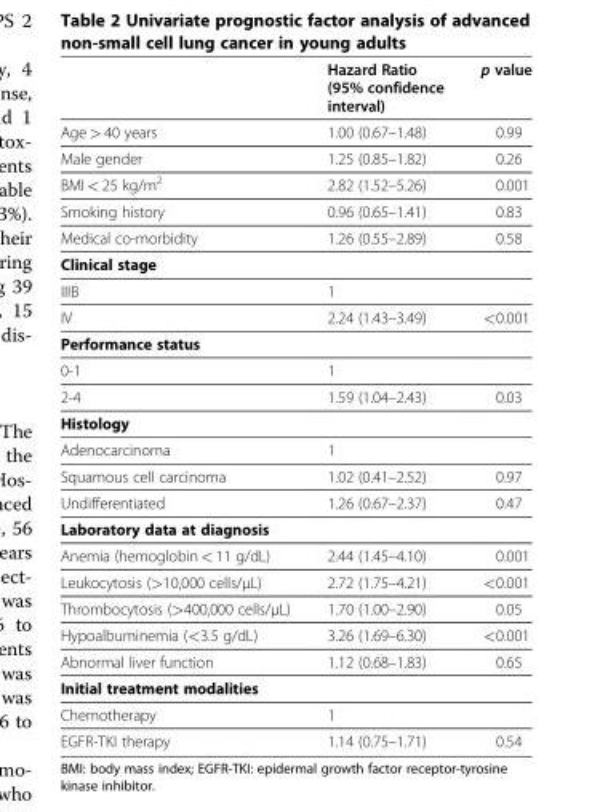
<table><thead><tr><td></td><td>Hazard Ratio (95% confidence interval)</td><td>p value</td></tr></thead><tbody><tr><td>Age &gt; 40 years</td><td>1.00 (0.67–1.48)</td><td>0.99</td></tr><tr><td>Male gender</td><td>1.25 (0.85–1.82)</td><td>0.26</td></tr><tr><td>BMI &lt; 25 kg/m<sup>2</sup></td><td>2.82 (1.52–5.26)</td><td>0.001</td></tr><tr><td>Smoking history</td><td>0.96 (0.65–1.41)</td><td>0.83</td></tr><tr><td>Medical co-morbidity</td><td>1.26 (0.55–2.89)</td><td>0.58</td></tr><tr><td colspan="3">Clinical stage</td></tr><tr><td>IIIB</td><td>1</td><td></td></tr><tr><td>IV</td><td>2.24 (1.43–3.49)</td><td>&lt;0.001</td></tr><tr><td colspan="3">Performance status</td></tr><tr><td>0-1</td><td>1</td><td></td></tr><tr><td>2-4</td><td>1.59 (1.04–2.43)</td><td>0.03</td></tr><tr><td colspan="3">Histology</td></tr><tr><td>Adenocarcinoma</td><td>1</td><td></td></tr><tr><td>Squamous cell carcinoma</td><td>1.02 (0.41–2.52)</td><td>0.97</td></tr><tr><td>Undifferentiated</td><td>1.26 (0.67–2.37)</td><td>0.47</td></tr><tr><td colspan="3">Laboratory data at diagnosis</td></tr><tr><td>Anemia (hemoglobin &lt; 11 g/dL)</td><td>2.44 (1.45–4.10)</td><td>0.001</td></tr><tr><td>Leukocytosis (&gt;10,000 cells/μL)</td><td>2.72 (1.75–4.21)</td><td>&lt;0.001</td></tr><tr><td>Thrombocytosis (&gt;400,000 cells/μL)</td><td>1.70 (1.00–2.90)</td><td>0.05</td></tr><tr><td>Hypoalbuminemia (&lt;3.5 g/dL)</td><td>3.26 (1.69–6.30)</td><td>&lt;0.001</td></tr><tr><td>Abnormal liver function</td><td>1.12 (0.68–1.83)</td><td>0.65</td></tr><tr><td colspan="3">Initial treatment modalities</td></tr><tr><td>Chemotherapy</td><td>1</td><td></td></tr><tr><td>EGFR-TKI therapy</td><td>1.14 (0.75–1.71)</td><td>0.54</td></tr></tbody></table>